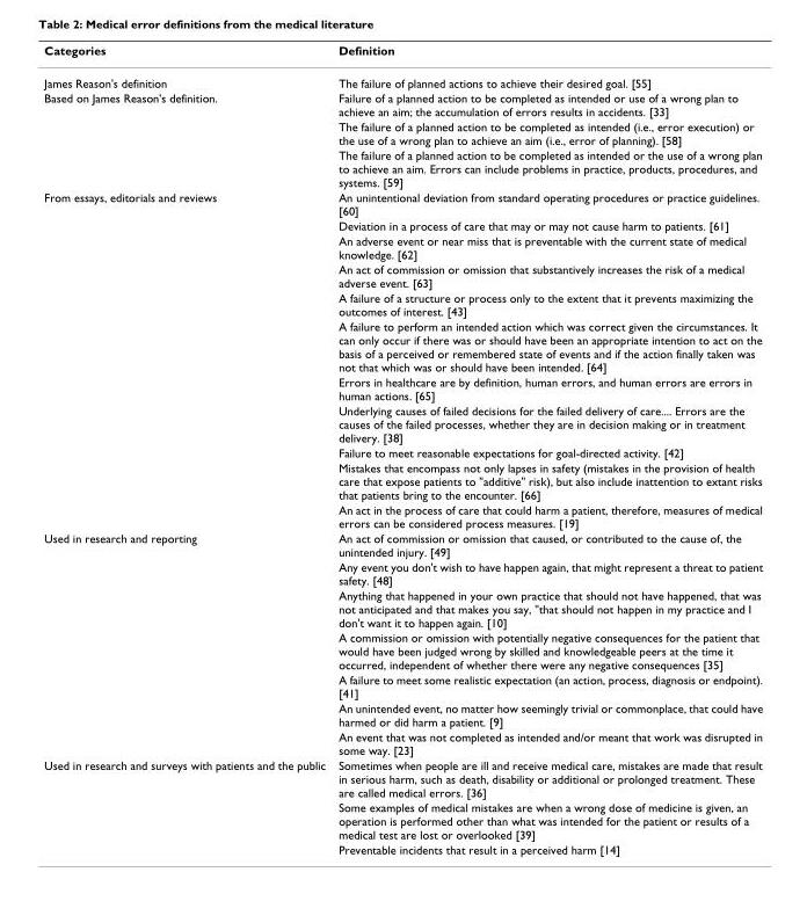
<table><thead><tr><td>Categories</td><td>Definition</td></tr></thead><tbody><tr><td>James Reason&#x27;s definition</td><td>The failure of planned actions to achieve their desired goal. [55]</td></tr><tr><td rowspan="3">Based on James Reason&#x27;s definition.</td><td>Failure of a planned action to be completed as intended or use of a wrong plan to achieve an aim; the accumulation of errors results in accidents. [33]</td></tr><tr><td>The failure of a planned action to be completed as intended (i.e., error execution) or the use of a wrong plan to achieve an aim (i.e., error of planning). [58]</td></tr><tr><td>The failure of a planned action to be completed as intended or the use of a wrong plan to achieve an aim. Errors can include problems in practice, products, procedures, and systems. [59]</td></tr><tr><td rowspan="11">From essays, editorials and reviews</td><td>An unintentional deviation from standard operating procedures or practice guidelines. [60]</td></tr><tr><td>Deviation in a process of care that may or may not cause harm to patients. [61]</td></tr><tr><td>An adverse event or near miss that is preventable with the current state of medical knowledge. [62]</td></tr><tr><td>An act of commission or omission that substantively increases the risk of a medical adverse event. [63]</td></tr><tr><td>A failure of a structure or process only to the extent that it prevents maximizing the outcomes of interest. [43]</td></tr><tr><td>A failure to perform an intended action which was correct given the circumstances. It can only occur if there was or should have been an appropriate intention to act on the basis of a perceived or remembered state of events and if the action finally taken was not that which was or should have been intended. [64]</td></tr><tr><td>Errors in healthcare are by definition, human errors, and human errors are errors in human actions. [65]</td></tr><tr><td>Underlying causes of failed decisions for the failed delivery of care.... Errors are the causes of the failed processes, whether they are in decision making or in treatment delivery. [38]</td></tr><tr><td>Failure to meet reasonable expectations for goal-directed activity. [42]</td></tr><tr><td>Mistakes that encompass not only lapses in safety (mistakes in the provision of health care that expose patients to &quot;additive&quot; risk), but also include inattention to extant risks that patients bring to the encounter. [66]</td></tr><tr><td>An act in the process of care that could harm a patient, therefore, measures of medical errors can be considered process measures. [19]</td></tr><tr><td rowspan="7">Used in research and reporting</td><td>An act of commission or omission that caused, or contributed to the cause of, the unintended injury. [49]</td></tr><tr><td>Any event you don&#x27;t wish to have happen again, that might represent a threat to patient safety. [48]</td></tr><tr><td>Anything that happened in your own practice that should not have happened, that was not anticipated and that makes you say, &quot;that should not happen in my practice and I don&#x27;t want it to happen again. [10]</td></tr><tr><td>A commission or omission with potentially negative consequences for the patient that would have been judged wrong by skilled and knowledgeable peers at the time it occurred, independent of whether there were any negative consequences [35]</td></tr><tr><td>A failure to meet some realistic expectation (an action, process, diagnosis or endpoint). [41]</td></tr><tr><td>An unintended event, no matter how seemingly trivial or commonplace, that could have harmed or did harm a patient. [9]</td></tr><tr><td>An event that was not completed as intended and/or meant that work was disrupted in some way. [23]</td></tr><tr><td rowspan="3">Used in research and surveys with patients and the public</td><td>Sometimes when people are ill and receive medical care, mistakes are made that result in serious harm, such as death, disability or additional or prolonged treatment. These are called medical errors. [36]</td></tr><tr><td>Some examples of medical mistakes are when a wrong dose of medicine is given, an operation is performed other than what was intended for the patient or results of a medical test are lost or overlooked [39]</td></tr><tr><td>Preventable incidents that result in a perceived harm [14]</td></tr></tbody></table>